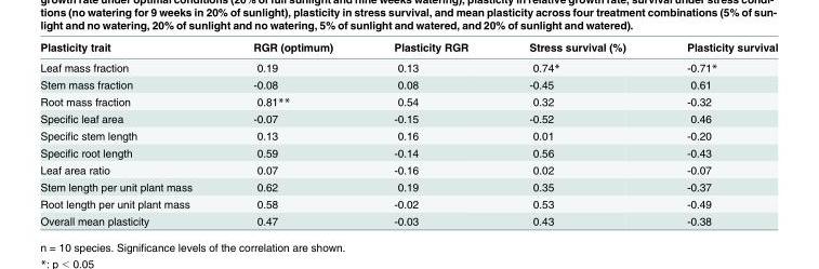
<table><thead><tr><td>Plasticity trait</td><td>RGR (optimum)</td><td>Plasticity RGR</td><td>Stress survival (%)</td><td>Plasticity survival</td></tr></thead><tbody><tr><td>Leaf mass fraction</td><td>0.19</td><td>0.13</td><td>0.74*</td><td>-0.71*</td></tr><tr><td>Stem mass fraction</td><td>-0.08</td><td>0.08</td><td>-0.45</td><td>0.61</td></tr><tr><td>Root mass fraction</td><td>0.81**</td><td>0.54</td><td>0.32</td><td>-0.32</td></tr><tr><td>Specific leaf area</td><td>-0.07</td><td>-0.15</td><td>-0.52</td><td>0.46</td></tr><tr><td>Specific stem length</td><td>0.13</td><td>0.16</td><td>0.01</td><td>-0.20</td></tr><tr><td>Specific root length</td><td>0.59</td><td>-0.14</td><td>0.56</td><td>-0.43</td></tr><tr><td>Leaf area ratio</td><td>0.07</td><td>-0.16</td><td>0.02</td><td>-0.07</td></tr><tr><td>Stem length per unit plant mass</td><td>0.62</td><td>0.19</td><td>0.35</td><td>-0.37</td></tr><tr><td>Root length per unit plant mass</td><td>0.58</td><td>-0.02</td><td>0.53</td><td>-0.49</td></tr><tr><td>Overall mean plasticity</td><td>0.47</td><td>-0.03</td><td>0.43</td><td>-0.38</td></tr></tbody></table>